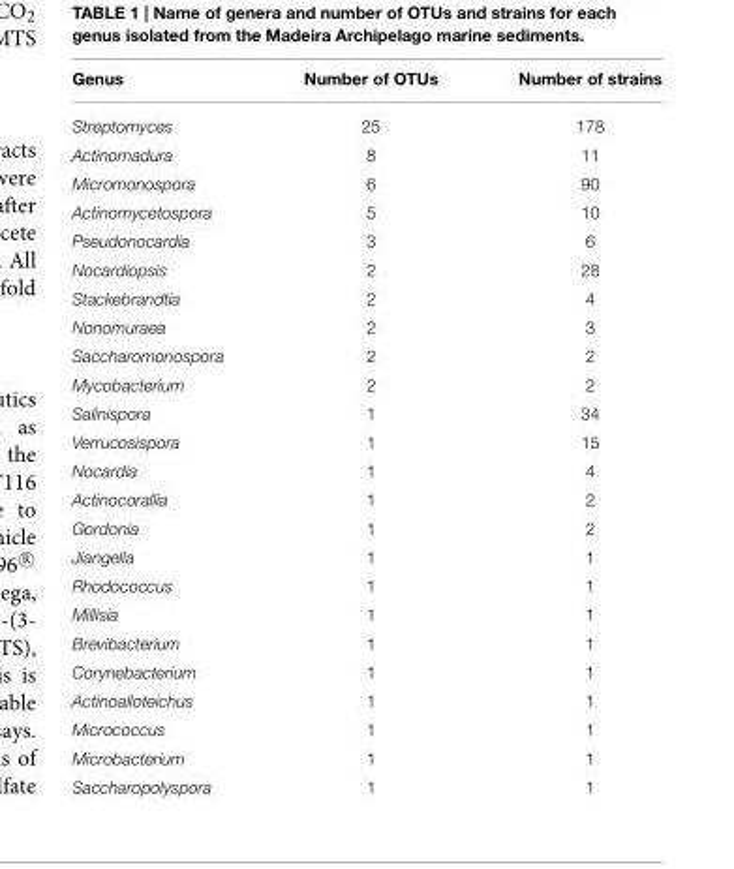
<table><thead><tr><td>Genus</td><td>Number of OTUs</td><td>Number of strains</td></tr></thead><tbody><tr><td>Streptomyces</td><td>25</td><td>178</td></tr><tr><td>Actinomadura</td><td>8</td><td>11</td></tr><tr><td>Micromonospora</td><td>6</td><td>90</td></tr><tr><td>Actinomycetospora</td><td>5</td><td>10</td></tr><tr><td>Pseudonocardia</td><td>3</td><td>6</td></tr><tr><td>Nocardiopsis</td><td>2</td><td>28</td></tr><tr><td>Stackebrandtia</td><td>2</td><td>4</td></tr><tr><td>Nonomuraea</td><td>2</td><td>3</td></tr><tr><td>Saccharomonospora</td><td>2</td><td>2</td></tr><tr><td>Mycobacterium</td><td>2</td><td>2</td></tr><tr><td>Salinispora</td><td>1</td><td>34</td></tr><tr><td>Verrucosispora</td><td>1</td><td>15</td></tr><tr><td>Nocardia</td><td>1</td><td>4</td></tr><tr><td>Actinocorallia</td><td>1</td><td>2</td></tr><tr><td>Gordonia</td><td>1</td><td>2</td></tr><tr><td>Jiangella</td><td>1</td><td>1</td></tr><tr><td>Rhodococcus</td><td>1</td><td>1</td></tr><tr><td>Millisia</td><td>1</td><td>1</td></tr><tr><td>Brevibacterium</td><td>1</td><td>1</td></tr><tr><td>Corynebacterium</td><td>1</td><td>1</td></tr><tr><td>Actinoalloteichus</td><td>1</td><td>1</td></tr><tr><td>Micrococcus</td><td>1</td><td>1</td></tr><tr><td>Microbacterium</td><td>1</td><td>1</td></tr><tr><td>Saccharopolyspora</td><td>1</td><td>1</td></tr></tbody></table>